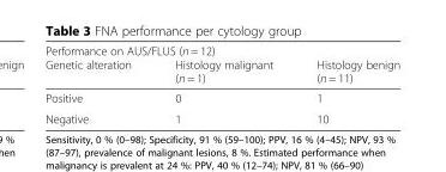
<table><thead><tr><td colspan="3">Performance on AUS/FLUS (n = 12)</td></tr><tr><td>Genetic alteration</td><td>Histology malignant (n = 1)</td><td>Histology benign (n = 11)</td></tr></thead><tbody><tr><td>Positive</td><td>0</td><td>1</td></tr><tr><td>Negative</td><td>1</td><td>10</td></tr></tbody></table>